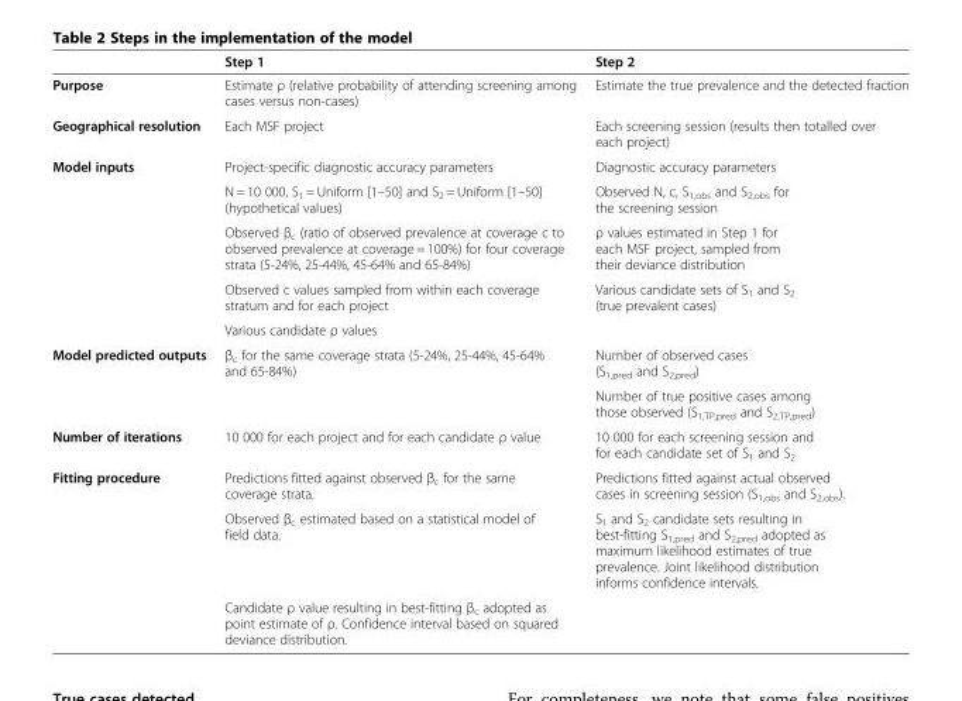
<table><thead><tr><td></td><td>Step 1</td><td>Step 2</td></tr></thead><tbody><tr><td>Purpose</td><td>Estimate ρ (relative probability of attending screening among cases versus non-cases)</td><td>Estimate the true prevalence and the detected fraction</td></tr><tr><td>Geographical resolution</td><td>Each MSF project</td><td>Each screening session (results then totalled over each project)</td></tr><tr><td rowspan="5">Model inputs</td><td>Project-specific diagnostic accuracy parameters</td><td>Diagnostic accuracy parameters</td></tr><tr><td>N = 10 000, S<sub>1</sub> = Uniform [1–50] and S<sub>2</sub> = Uniform [1–50] (hypothetical values)</td><td>Observed N, c, S<sub>1,obs</sub> and S<sub>2,obs</sub> for the screening session</td></tr><tr><td>Observed β<sub>c</sub> (ratio of observed prevalence at coverage c to observed prevalence at coverage = 100%) for four coverage strata (5-24%, 25-44%, 45-64% and 65-84%)</td><td>ρ values estimated in Step 1 for each MSF project, sampled from their deviance distribution</td></tr><tr><td>Observed c values sampled from within each coverage stratum and for each project</td><td>Various candidate sets of S<sub>1</sub> and S<sub>2</sub> (true prevalent cases)</td></tr><tr><td>Various candidate ρ values</td><td></td></tr><tr><td rowspan="2">Model predicted outputs</td><td>β<sub>c</sub> for the same coverage strata (5-24%, 25-44%, 45-64% and 65-84%)</td><td>Number of observed cases (S<sub>1,pred</sub> and S<sub>2,pred</sub>)</td></tr><tr><td></td><td>Number of true positive cases among those observed (S<sub>1,TP,pred</sub> and S<sub>2,TP,pred</sub>)</td></tr><tr><td>Number of iterations</td><td>10 000 for each project and for each candidate ρ value</td><td>10 000 for each screening session and for each candidate set of S<sub>1</sub> and S<sub>2</sub></td></tr><tr><td rowspan="3">Fitting procedure</td><td>Predictions fitted against observed β<sub>c</sub> for the same coverage strata.</td><td>Predictions fitted against actual observed cases in screening session (S<sub>1,obs</sub> and S<sub>2,obs</sub>).</td></tr><tr><td>Observed β<sub>c</sub> estimated based on a statistical model of field data.</td><td>S<sub>1</sub> and S<sub>2</sub> candidate sets resulting in best-fitting S<sub>1,pred</sub> and S<sub>2,pred</sub> adopted as maximum likelihood estimates of true prevalence. Joint likelihood distribution informs confidence intervals.</td></tr><tr><td>Candidate ρ value resulting in best-fitting β<sub>c</sub> adopted as point estimate of ρ. Confidence interval based on squared deviance distribution.</td><td></td></tr></tbody></table>